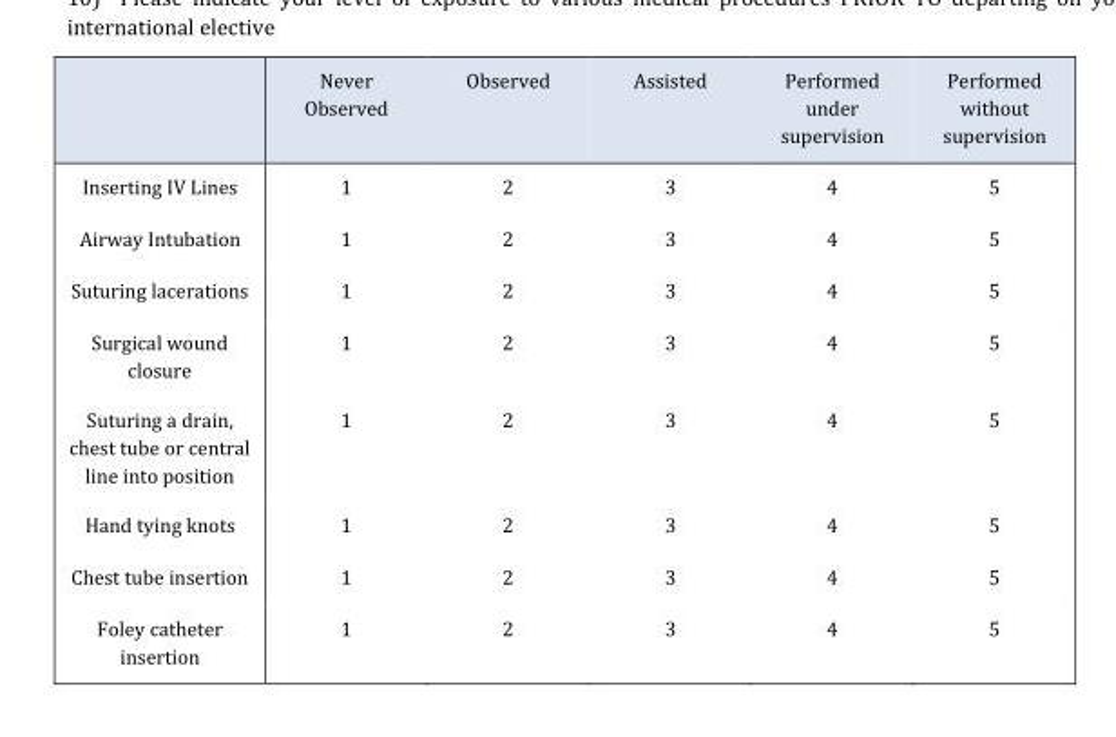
<table><thead><tr><td></td><td>Never Observed</td><td>Observed</td><td>Assisted</td><td>Performed under supervision</td><td>Performed without supervision</td></tr></thead><tbody><tr><td>Inserting IV Lines</td><td>1</td><td>2</td><td>3</td><td>4</td><td>5</td></tr><tr><td>Airway Intubation</td><td>1</td><td>2</td><td>3</td><td>4</td><td>5</td></tr><tr><td>Suturing lacerations</td><td>1</td><td>2</td><td>3</td><td>4</td><td>5</td></tr><tr><td>Surgical wound closure</td><td>1</td><td>2</td><td>3</td><td>4</td><td>5</td></tr><tr><td>Suturing a drain, chest tube or central line into position</td><td>1</td><td>2</td><td>3</td><td>4</td><td>5</td></tr><tr><td>Hand tying knots</td><td>1</td><td>2</td><td>3</td><td>4</td><td>5</td></tr><tr><td>Chest tube insertion</td><td>1</td><td>2</td><td>3</td><td>4</td><td>5</td></tr><tr><td>Foley catheter insertion</td><td>1</td><td>2</td><td>3</td><td>4</td><td>5</td></tr></tbody></table>